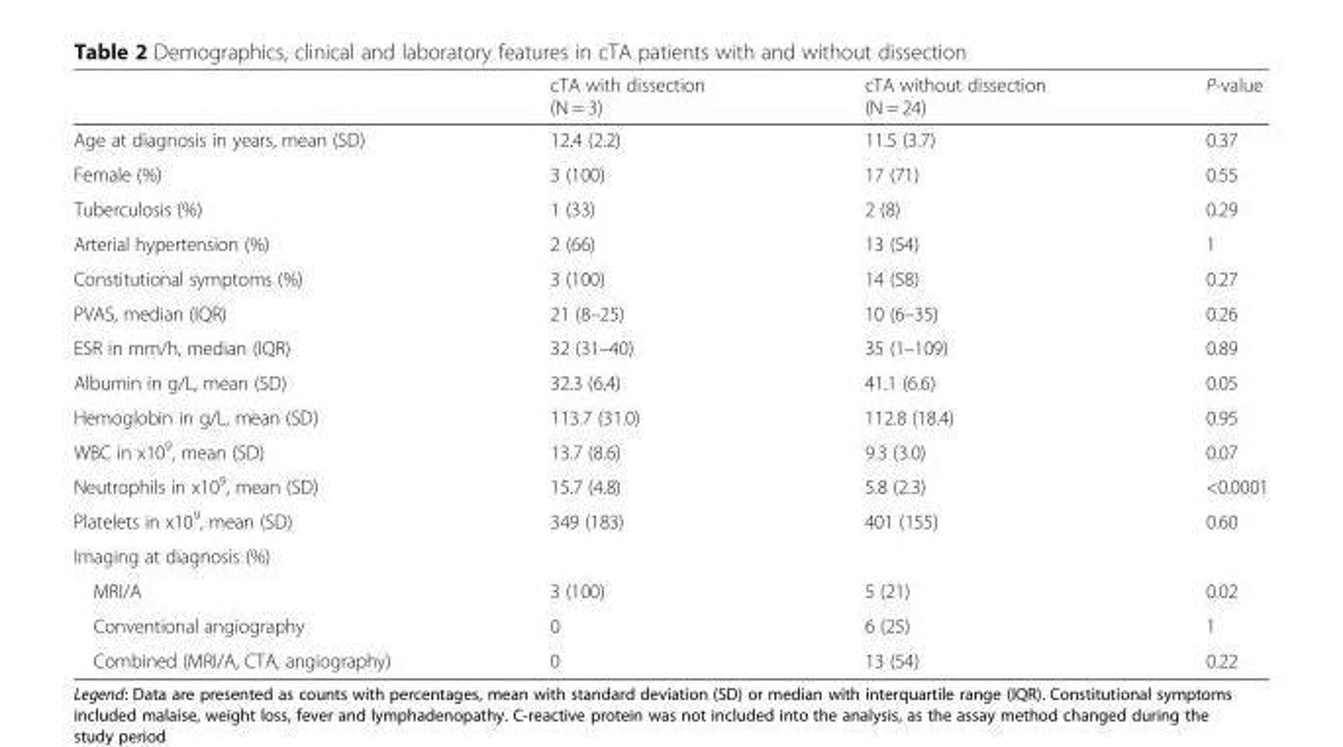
<table><thead><tr><td></td><td>cTA with dissection (N = 3)</td><td>cTA without dissection (N = 24)</td><td>P-value</td></tr></thead><tbody><tr><td>Age at diagnosis in years, mean (SD)</td><td>12.4 (2.2)</td><td>11.5 (3.7)</td><td>0.37</td></tr><tr><td>Female (%)</td><td>3 (100)</td><td>17 (71)</td><td>0.55</td></tr><tr><td>Tuberculosis (%)</td><td>1 (33)</td><td>2 (8)</td><td>0.29</td></tr><tr><td>Arterial hypertension (%)</td><td>2 (66)</td><td>13 (54)</td><td>1</td></tr><tr><td>Constitutional symptoms (%)</td><td>3 (100)</td><td>14 (58)</td><td>0.27</td></tr><tr><td>PVAS, median (IQR)</td><td>21 (8–25)</td><td>10 (6–35)</td><td>0.26</td></tr><tr><td>ESR in mm/h, median (IQR)</td><td>32 (31–40)</td><td>35 (1–109)</td><td>0.89</td></tr><tr><td>Albumin in g/L, mean (SD)</td><td>32.3 (6.4)</td><td>41.1 (6.6)</td><td>0.05</td></tr><tr><td>Hemoglobin in g/L, mean (SD)</td><td>113.7 (31.0)</td><td>112.8 (18.4)</td><td>0.95</td></tr><tr><td>WBC in x10<sup>9</sup>, mean (SD)</td><td>13.7 (8.6)</td><td>9.3 (3.0)</td><td>0.07</td></tr><tr><td>Neutrophils in x10<sup>9</sup>, mean (SD)</td><td>15.7 (4.8)</td><td>5.8 (2.3)</td><td>&lt;0.0001</td></tr><tr><td>Platelets in x10<sup>9</sup>, mean (SD)</td><td>349 (183)</td><td>401 (155)</td><td>0.60</td></tr><tr><td colspan="4">Imaging at diagnosis (%)</td></tr><tr><td>MRI/A</td><td>3 (100)</td><td>5 (21)</td><td>0.02</td></tr><tr><td>Conventional angiography</td><td>0</td><td>6 (25)</td><td>1</td></tr><tr><td>Combined (MRI/A, CTA, angiography)</td><td>0</td><td>13 (54)</td><td>0.22</td></tr></tbody></table>